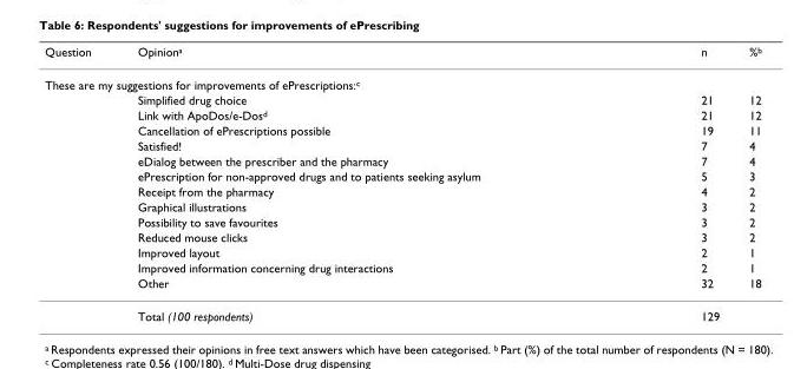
<table><thead><tr><td>Question</td><td>Opinion<sup>a</sup></td><td>n</td><td>%<sup>b</sup></td></tr></thead><tbody><tr><td colspan="4">These are my suggestions for improvements of ePrescriptions:<sup>c</sup></td></tr><tr><td></td><td>Simplified drug choice</td><td>21</td><td>12</td></tr><tr><td></td><td>Link with ApoDos/e-Dos<sup>d</sup></td><td>21</td><td>12</td></tr><tr><td></td><td>Cancellation of ePrescriptions possible</td><td>19</td><td>11</td></tr><tr><td></td><td>Satisfied!</td><td>7</td><td>4</td></tr><tr><td></td><td>eDialog between the prescriber and the pharmacy</td><td>7</td><td>4</td></tr><tr><td></td><td>ePrescription for non-approved drugs and to patients seeking asylum</td><td>5</td><td>3</td></tr><tr><td></td><td>Receipt from the pharmacy</td><td>4</td><td>2</td></tr><tr><td></td><td>Graphical illustrations</td><td>3</td><td>2</td></tr><tr><td></td><td>Possibility to save favourites</td><td>3</td><td>2</td></tr><tr><td></td><td>Reduced mouse clicks</td><td>3</td><td>2</td></tr><tr><td></td><td>Improved layout</td><td>2</td><td>1</td></tr><tr><td></td><td>Improved information concerning drug interactions</td><td>2</td><td>1</td></tr><tr><td></td><td>Other</td><td>32</td><td>18</td></tr><tr><td></td><td>Total (100 respondents)</td><td>129</td><td></td></tr></tbody></table>